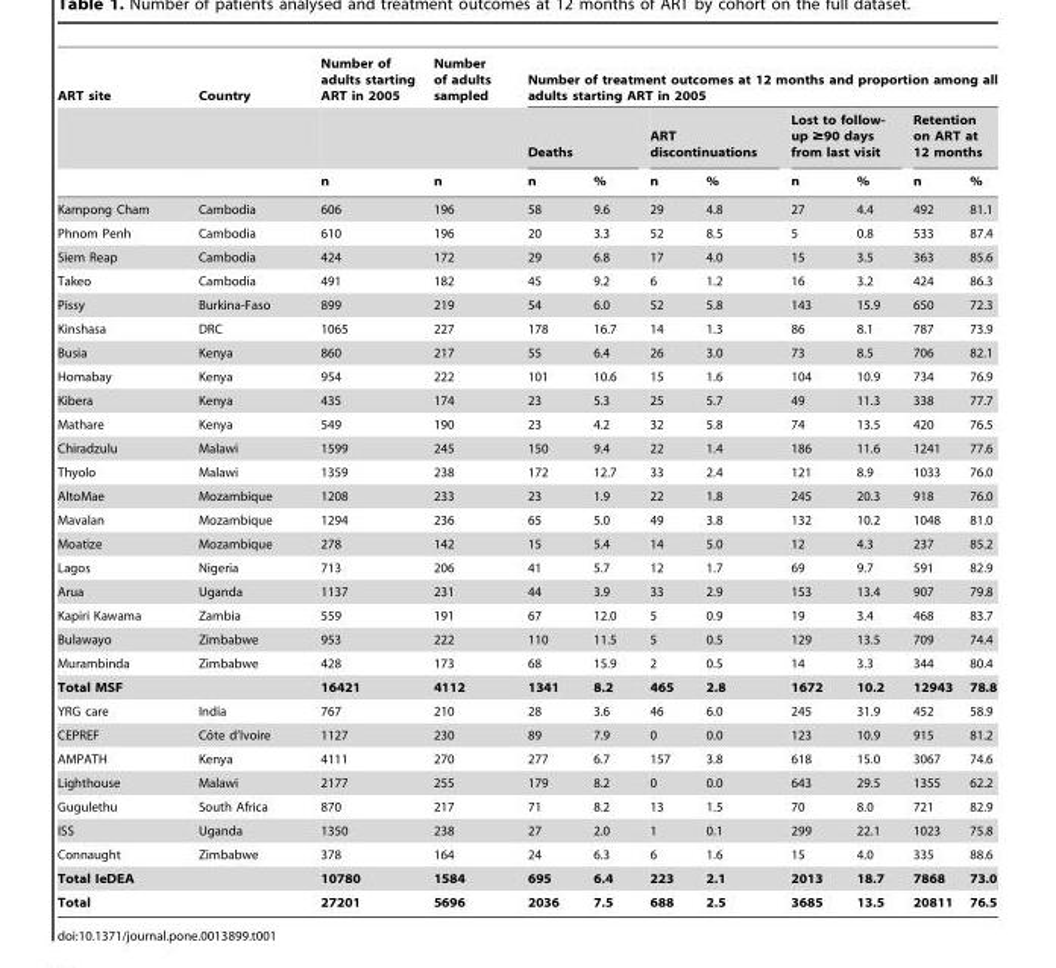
<table><thead><tr><td rowspan="3">ART site</td><td rowspan="3">Country</td><td rowspan="3">Number of adults starting ART in 2005 n</td><td rowspan="3">Number of adults sampled n</td><td colspan="8">Number of treatment outcomes at 12 months and proportion among all adults starting ART in 2005</td></tr><tr><td colspan="2">Deaths</td><td colspan="2">ART discontinuations</td><td colspan="2">Lost to follow- up ≥90 days from last visit</td><td colspan="2">Retention on ART at 12 months</td></tr><tr><td>n</td><td>%</td><td>n</td><td>%</td><td>n</td><td>%</td><td>n</td><td>%</td></tr></thead><tbody><tr><td>Kampong Cham</td><td>Cambodia</td><td>606</td><td>196</td><td>58</td><td>9.6</td><td>29</td><td>4.8</td><td>27</td><td>4.4</td><td>492</td><td>81.1</td></tr><tr><td>Phnom Penh</td><td>Cambodia</td><td>610</td><td>196</td><td>20</td><td>3.3</td><td>52</td><td>8.5</td><td>5</td><td>0.8</td><td>533</td><td>87.4</td></tr><tr><td>Siem Reap</td><td>Cambodia</td><td>424</td><td>172</td><td>29</td><td>6.8</td><td>17</td><td>4.0</td><td>15</td><td>3.5</td><td>363</td><td>85.6</td></tr><tr><td>Takeo</td><td>Cambodia</td><td>491</td><td>182</td><td>45</td><td>9.2</td><td>6</td><td>1.2</td><td>16</td><td>3.2</td><td>424</td><td>86.3</td></tr><tr><td>Pissy</td><td>Burkina-Faso</td><td>899</td><td>219</td><td>54</td><td>6.0</td><td>52</td><td>5.8</td><td>143</td><td>15.9</td><td>650</td><td>72.3</td></tr><tr><td>Kinshasa</td><td>DRC</td><td>1065</td><td>227</td><td>178</td><td>16.7</td><td>14</td><td>1.3</td><td>86</td><td>8.1</td><td>787</td><td>73.9</td></tr><tr><td>Busia</td><td>Kenya</td><td>860</td><td>217</td><td>55</td><td>6.4</td><td>26</td><td>3.0</td><td>73</td><td>8.5</td><td>706</td><td>82.1</td></tr><tr><td>Homabay</td><td>Kenya</td><td>954</td><td>222</td><td>101</td><td>10.6</td><td>15</td><td>1.6</td><td>104</td><td>10.9</td><td>734</td><td>76.9</td></tr><tr><td>Kibera</td><td>Kenya</td><td>435</td><td>174</td><td>23</td><td>5.3</td><td>25</td><td>5.7</td><td>49</td><td>11.3</td><td>338</td><td>77.7</td></tr><tr><td>Mathare</td><td>Kenya</td><td>549</td><td>190</td><td>23</td><td>4.2</td><td>32</td><td>5.8</td><td>74</td><td>13.5</td><td>420</td><td>76.5</td></tr><tr><td>Chiradzulu</td><td>Malawi</td><td>1599</td><td>245</td><td>150</td><td>9.4</td><td>22</td><td>1.4</td><td>186</td><td>11.6</td><td>1241</td><td>77.6</td></tr><tr><td>Thyolo</td><td>Malawi</td><td>1359</td><td>238</td><td>172</td><td>12.7</td><td>33</td><td>2.4</td><td>121</td><td>8.9</td><td>1033</td><td>76.0</td></tr><tr><td>AltoMae</td><td>Mozambique</td><td>1208</td><td>233</td><td>23</td><td>1.9</td><td>22</td><td>1.8</td><td>245</td><td>20.3</td><td>918</td><td>76.0</td></tr><tr><td>Mavalan</td><td>Mozambique</td><td>1294</td><td>236</td><td>65</td><td>5.0</td><td>49</td><td>3.8</td><td>132</td><td>10.2</td><td>1048</td><td>81.0</td></tr><tr><td>Moatize</td><td>Mozambique</td><td>278</td><td>142</td><td>15</td><td>5.4</td><td>14</td><td>5.0</td><td>12</td><td>4.3</td><td>237</td><td>85.2</td></tr><tr><td>Lagos</td><td>Nigeria</td><td>713</td><td>206</td><td>41</td><td>5.7</td><td>12</td><td>1.7</td><td>69</td><td>9.7</td><td>591</td><td>82.9</td></tr><tr><td>Arua</td><td>Uganda</td><td>1137</td><td>231</td><td>44</td><td>3.9</td><td>33</td><td>2.9</td><td>153</td><td>13.4</td><td>907</td><td>79.8</td></tr><tr><td>Kapiri Kawama</td><td>Zambia</td><td>559</td><td>191</td><td>67</td><td>12.0</td><td>5</td><td>0.9</td><td>19</td><td>3.4</td><td>468</td><td>83.7</td></tr><tr><td>Bulawayo</td><td>Zimbabwe</td><td>953</td><td>222</td><td>110</td><td>11.5</td><td>5</td><td>0.5</td><td>129</td><td>13.5</td><td>709</td><td>74.4</td></tr><tr><td>Murambinda</td><td>Zimbabwe</td><td>428</td><td>173</td><td>68</td><td>15.9</td><td>2</td><td>0.5</td><td>14</td><td>3.3</td><td>344</td><td>80.4</td></tr><tr><td>Total MSF</td><td></td><td>16421</td><td>4112</td><td>1341</td><td>8.2</td><td>465</td><td>2.8</td><td>1672</td><td>10.2</td><td>12943</td><td>78.8</td></tr><tr><td>YRG care</td><td>India</td><td>767</td><td>210</td><td>28</td><td>3.6</td><td>46</td><td>6.0</td><td>245</td><td>31.9</td><td>452</td><td>58.9</td></tr><tr><td>CEPREF</td><td>Coˆte d’Ivoire</td><td>1127</td><td>230</td><td>89</td><td>7.9</td><td>0</td><td>0.0</td><td>123</td><td>10.9</td><td>915</td><td>81.2</td></tr><tr><td>AMPATH</td><td>Kenya</td><td>4111</td><td>270</td><td>277</td><td>6.7</td><td>157</td><td>3.8</td><td>618</td><td>15.0</td><td>3067</td><td>74.6</td></tr><tr><td>Lighthouse</td><td>Malawi</td><td>2177</td><td>255</td><td>179</td><td>8.2</td><td>0</td><td>0.0</td><td>643</td><td>29.5</td><td>1355</td><td>62.2</td></tr><tr><td>Gugulethu</td><td>South Africa</td><td>870</td><td>217</td><td>71</td><td>8.2</td><td>13</td><td>1.5</td><td>70</td><td>8.0</td><td>721</td><td>82.9</td></tr><tr><td>ISS</td><td>Uganda</td><td>1350</td><td>238</td><td>27</td><td>2.0</td><td>1</td><td>0.1</td><td>299</td><td>22.1</td><td>1023</td><td>75.8</td></tr><tr><td>Connaught</td><td>Zimbabwe</td><td>378</td><td>164</td><td>24</td><td>6.3</td><td>6</td><td>1.6</td><td>15</td><td>4.0</td><td>335</td><td>88.6</td></tr><tr><td>Total IeDEA</td><td></td><td>10780</td><td>1584</td><td>695</td><td>6.4</td><td>223</td><td>2.1</td><td>2013</td><td>18.7</td><td>7868</td><td>73.0</td></tr><tr><td>Total</td><td></td><td>27201</td><td>5696</td><td>2036</td><td>7.5</td><td>688</td><td>2.5</td><td>3685</td><td>13.5</td><td>20811</td><td>76.5</td></tr></tbody></table>